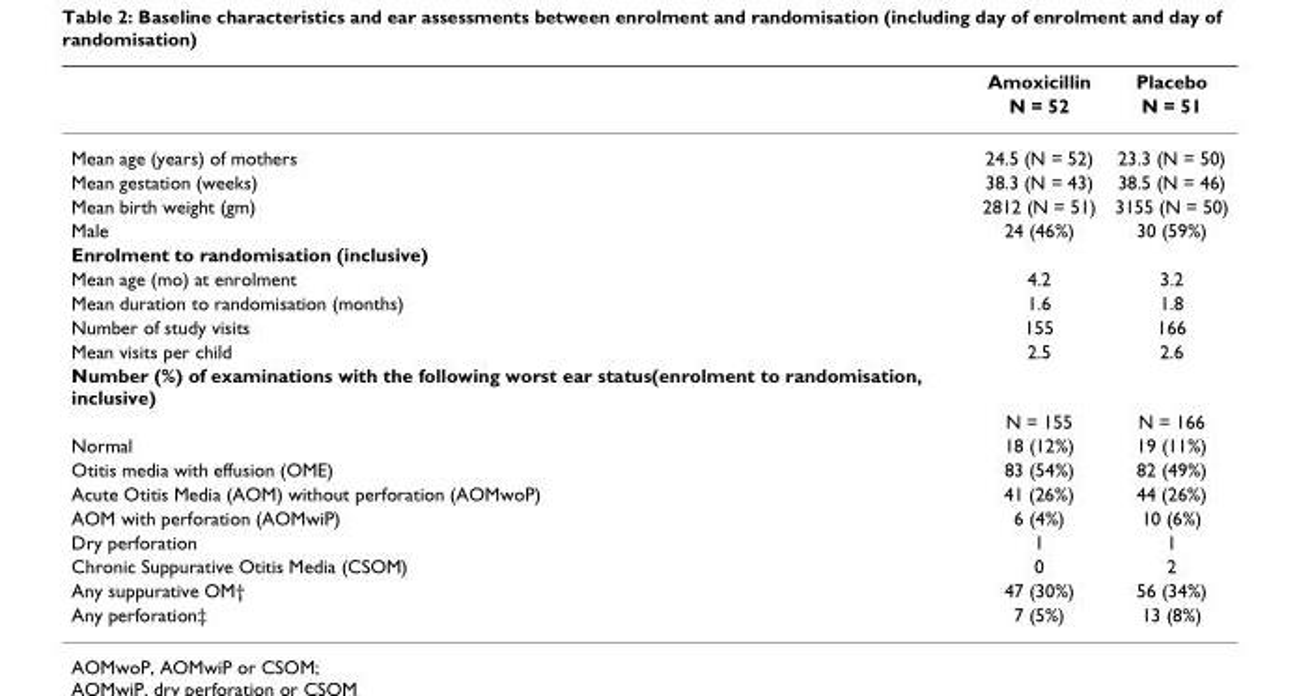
<table><thead><tr><td rowspan="2"></td><td rowspan="2">Amoxicillin N = 52</td><td rowspan="2">Placebo N = 51</td></tr><tr></tr></thead><tbody><tr><td>Mean age (years) of mothers</td><td>24.5 (N = 52)</td><td>23.3 (N = 50)</td></tr><tr><td>Mean gestation (weeks)</td><td>38.3 (N = 43)</td><td>38.5 (N = 46)</td></tr><tr><td>Mean birth weight (gm)</td><td>2812 (N = 51)</td><td>3155 (N = 50)</td></tr><tr><td>Male</td><td>24 (46%)</td><td>30 (59%)</td></tr><tr><td colspan="3">Enrolment to randomisation (inclusive)</td></tr><tr><td>Mean age (mo) at enrolment</td><td>4.2</td><td>3.2</td></tr><tr><td>Mean duration to randomisation (months)</td><td>1.6</td><td>1.8</td></tr><tr><td>Number of study visits</td><td>155</td><td>166</td></tr><tr><td>Mean visits per child</td><td>2.5</td><td>2.6</td></tr><tr><td colspan="3">Number (%) of examinations with the following worst ear status(enrolment to randomisation, inclusive)</td></tr><tr><td></td><td>N = 155</td><td>N = 166</td></tr><tr><td>Normal</td><td>18 (12%)</td><td>19 (11%)</td></tr><tr><td>Otitis media with effusion (OME)</td><td>83 (54%)</td><td>82 (49%)</td></tr><tr><td>Acute Otitis Media (AOM) without perforation (AOMwoP)</td><td>41 (26%)</td><td>44 (26%)</td></tr><tr><td>AOM with perforation (AOMwiP)</td><td>6 (4%)</td><td>10 (6%)</td></tr><tr><td>Dry perforation</td><td>1</td><td>1</td></tr><tr><td>Chronic Suppurative Otitis Media (CSOM)</td><td>0</td><td>2</td></tr><tr><td>Any suppurative OM†</td><td>47 (30%)</td><td>56 (34%)</td></tr><tr><td>Any perforation‡</td><td>7 (5%)</td><td>13 (8%)</td></tr></tbody></table>